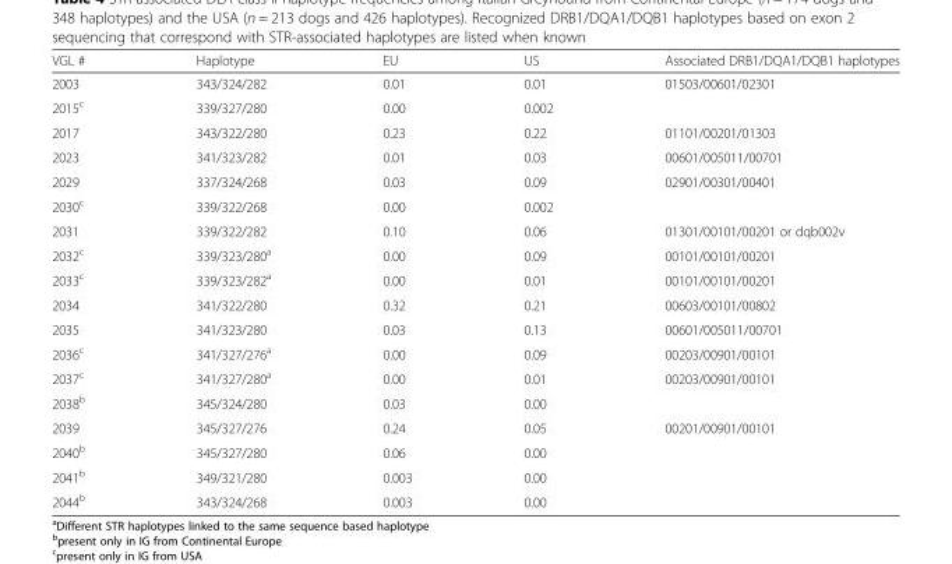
<table><thead><tr><td>VGL #</td><td>Haplotype</td><td>EU</td><td>US</td><td>Associated DRB1/DQA1/DQB1 haplotypes</td></tr></thead><tbody><tr><td>2003</td><td>343/324/282</td><td>0.01</td><td>0.01</td><td>01503/00601/02301</td></tr><tr><td>2015<sup>c</sup></td><td>339/327/280</td><td>0.00</td><td>0.002</td><td></td></tr><tr><td>2017</td><td>343/322/280</td><td>0.23</td><td>0.22</td><td>01101/00201/01303</td></tr><tr><td>2023</td><td>341/323/282</td><td>0.01</td><td>0.03</td><td>00601/005011/00701</td></tr><tr><td>2029</td><td>337/324/268</td><td>0.03</td><td>0.09</td><td>02901/00301/00401</td></tr><tr><td>2030<sup>c</sup></td><td>339/322/268</td><td>0.00</td><td>0.002</td><td></td></tr><tr><td>2031</td><td>339/322/282</td><td>0.10</td><td>0.06</td><td>01301/00101/00201 or dqb002v</td></tr><tr><td>2032<sup>c</sup></td><td>339/323/280<sup>a</sup></td><td>0.00</td><td>0.09</td><td>00101/00101/00201</td></tr><tr><td>2033<sup>c</sup></td><td>339/323/282<sup>a</sup></td><td>0.00</td><td>0.01</td><td>00101/00101/00201</td></tr><tr><td>2034</td><td>341/322/280</td><td>0.32</td><td>0.21</td><td>00603/00101/00802</td></tr><tr><td>2035</td><td>341/323/280</td><td>0.03</td><td>0.13</td><td>00601/005011/00701</td></tr><tr><td>2036<sup>c</sup></td><td>341/327/276<sup>a</sup></td><td>0.00</td><td>0.09</td><td>00203/00901/00101</td></tr><tr><td>2037<sup>c</sup></td><td>341/327/280<sup>a</sup></td><td>0.00</td><td>0.01</td><td>00203/00901/00101</td></tr><tr><td>2038<sup>b</sup></td><td>345/324/280</td><td>0.03</td><td>0.00</td><td></td></tr><tr><td>2039</td><td>345/327/276</td><td>0.24</td><td>0.05</td><td>00201/00901/00101</td></tr><tr><td>2040<sup>b</sup></td><td>345/327/280</td><td>0.06</td><td>0.00</td><td></td></tr><tr><td>2041<sup>b</sup></td><td>349/321/280</td><td>0.003</td><td>0.00</td><td></td></tr><tr><td>2044<sup>b</sup></td><td>343/324/268</td><td>0.003</td><td>0.00</td><td></td></tr></tbody></table>